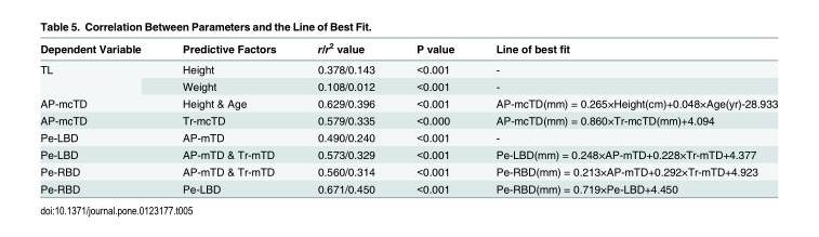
<table><thead><tr><td>Dependent Variable</td><td>Predictive Factors</td><td>r/r<sup>2</sup> value</td><td>P value</td><td>Line of best fit</td></tr></thead><tbody><tr><td rowspan="2">TL</td><td>Height</td><td>0.378/0.143</td><td>&lt;0.001</td><td>-</td></tr><tr><td>Weight</td><td>0.108/0.012</td><td>&lt;0.001</td><td>-</td></tr><tr><td>AP-mcTD</td><td>Height &amp; Age</td><td>0.629/0.396</td><td>&lt;0.001</td><td>AP-mcTD(mm) = 0.265×Height(cm)+0.048×Age(yr)-28.933</td></tr><tr><td>AP-mcTD</td><td>Tr-mcTD</td><td>0.579/0.335</td><td>&lt;0.000</td><td>AP-mcTD(mm) = 0.860×Tr-mcTD(mm)+4.094</td></tr><tr><td>Pe-LBD</td><td>AP-mTD</td><td>0.490/0.240</td><td>&lt;0.001</td><td>-</td></tr><tr><td>Pe-LBD</td><td>AP-mTD &amp; Tr-mTD</td><td>0.573/0.329</td><td>&lt;0.001</td><td>Pe-LBD(mm) = 0.248×AP-mTD+0.228×Tr-mTD+4.377</td></tr><tr><td>Pe-RBD</td><td>AP-mTD &amp; Tr-mTD</td><td>0.560/0.314</td><td>&lt;0.001</td><td>Pe-RBD(mm) = 0.213×AP-mTD+0.292×Tr-mTD+4.923</td></tr><tr><td>Pe-RBD</td><td>Pe-LBD</td><td>0.671/0.450</td><td>&lt;0.001</td><td>Pe-RBD(mm) = 0.719×Pe-LBD+4.450</td></tr></tbody></table>